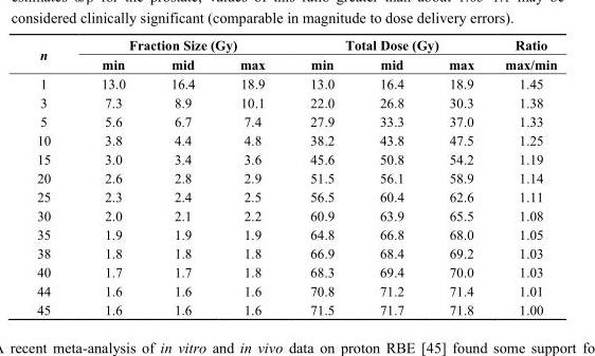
<table><thead><tr><td rowspan="2">n</td><td colspan="3">Fraction Size (Gy)</td><td colspan="3">Total Dose (Gy)</td><td rowspan="2">Ratio max/min</td></tr><tr><td>min</td><td>mid</td><td>max</td><td>min</td><td>mid</td><td>max</td></tr></thead><tbody><tr><td>1</td><td>13.0</td><td>16.4</td><td>18.9</td><td>13.0</td><td>16.4</td><td>18.9</td><td>1.45</td></tr><tr><td>3</td><td>7.3</td><td>8.9</td><td>10.1</td><td>22.0</td><td>26.8</td><td>30.3</td><td>1.38</td></tr><tr><td>5</td><td>5.6</td><td>6.7</td><td>7.4</td><td>27.9</td><td>33.3</td><td>37.0</td><td>1.33</td></tr><tr><td>10</td><td>3.8</td><td>4.4</td><td>4.8</td><td>38.2</td><td>43.8</td><td>47.5</td><td>1.25</td></tr><tr><td>15</td><td>3.0</td><td>3.4</td><td>3.6</td><td>45.6</td><td>50.8</td><td>54.2</td><td>1.19</td></tr><tr><td>20</td><td>2.6</td><td>2.8</td><td>2.9</td><td>51.5</td><td>56.1</td><td>58.9</td><td>1.14</td></tr><tr><td>25</td><td>2.3</td><td>2.4</td><td>2.5</td><td>56.5</td><td>60.4</td><td>62.6</td><td>1.11</td></tr><tr><td>30</td><td>2.0</td><td>2.1</td><td>2.2</td><td>60.9</td><td>63.9</td><td>65.5</td><td>1.08</td></tr><tr><td>35</td><td>1.9</td><td>1.9</td><td>1.9</td><td>64.8</td><td>66.8</td><td>68.0</td><td>1.05</td></tr><tr><td>38</td><td>1.8</td><td>1.8</td><td>1.8</td><td>66.9</td><td>68.4</td><td>69.2</td><td>1.03</td></tr><tr><td>40</td><td>1.7</td><td>1.7</td><td>1.8</td><td>68.3</td><td>69.4</td><td>70.0</td><td>1.03</td></tr><tr><td>44</td><td>1.6</td><td>1.6</td><td>1.6</td><td>70.8</td><td>71.2</td><td>71.4</td><td>1.01</td></tr><tr><td>45</td><td>1.6</td><td>1.6</td><td>1.6</td><td>71.5</td><td>71.7</td><td>71.8</td><td>1.00</td></tr></tbody></table>